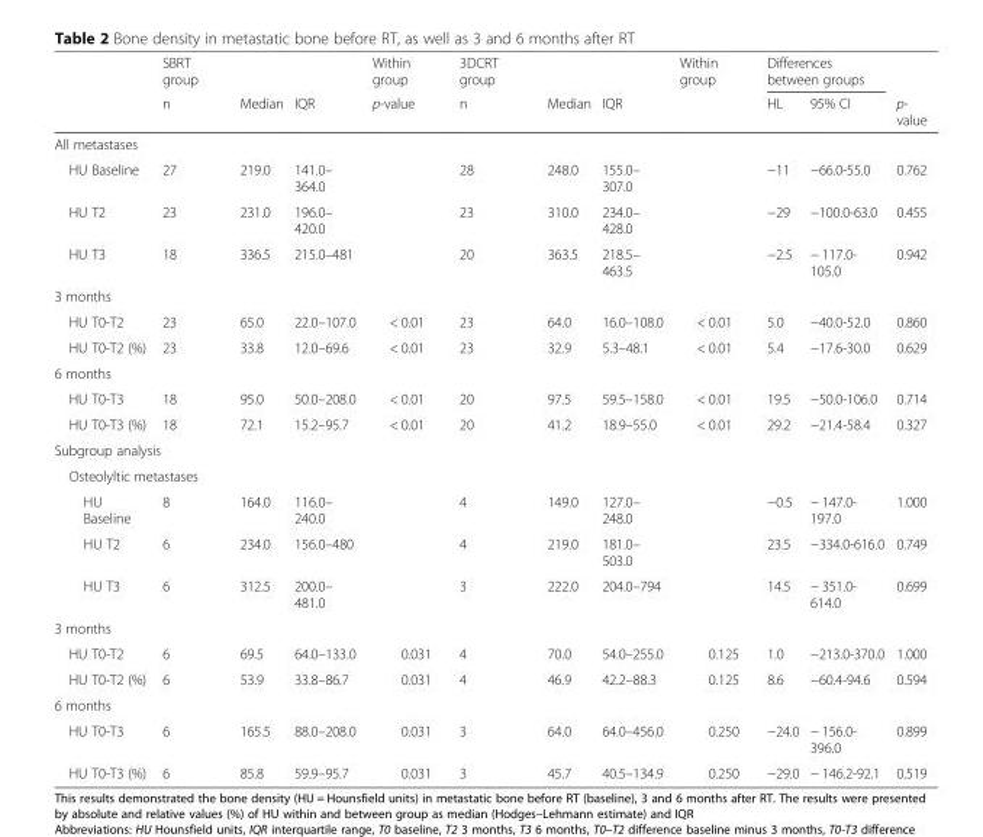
<table><thead><tr><td rowspan="2"></td><td rowspan="2">SBRT group n</td><td rowspan="2">Median</td><td rowspan="2">IQR</td><td rowspan="2">Within group p-value</td><td rowspan="2">3DCRT group n</td><td rowspan="2">Median</td><td rowspan="2">IQR</td><td rowspan="2">Within group</td><td colspan="2">Differences between groups</td><td rowspan="2">p- value</td></tr><tr><td>HL</td><td>95% CI</td></tr></thead><tbody><tr><td colspan="12">All metastases</td></tr><tr><td>HU Baseline</td><td>27</td><td>219.0</td><td>141.0– 364.0</td><td></td><td>28</td><td>248.0</td><td>155.0– 307.0</td><td></td><td>−11</td><td>−66.0-55.0</td><td>0.762</td></tr><tr><td>HU T2</td><td>23</td><td>231.0</td><td>196.0– 420.0</td><td></td><td>23</td><td>310.0</td><td>234.0– 428.0</td><td></td><td>−29</td><td>−100.0-63.0</td><td>0.455</td></tr><tr><td>HU T3</td><td>18</td><td>336.5</td><td>215.0–481</td><td></td><td>20</td><td>363.5</td><td>218.5– 463.5</td><td></td><td>−2.5</td><td>− 117.0- 105.0</td><td>0.942</td></tr><tr><td colspan="12">3 months</td></tr><tr><td>HU T0-T2</td><td>23</td><td>65.0</td><td>22.0–107.0</td><td>&lt; 0.01</td><td>23</td><td>64.0</td><td>16.0–108.0</td><td>&lt; 0.01</td><td>5.0</td><td>−40.0-52.0</td><td>0.860</td></tr><tr><td>HU T0-T2 (%)</td><td>23</td><td>33.8</td><td>12.0–69.6</td><td>&lt; 0.01</td><td>23</td><td>32.9</td><td>5.3–48.1</td><td>&lt; 0.01</td><td>5.4</td><td>−17.6-30.0</td><td>0.629</td></tr><tr><td colspan="12">6 months</td></tr><tr><td>HU T0-T3</td><td>18</td><td>95.0</td><td>50.0–208.0</td><td>&lt; 0.01</td><td>20</td><td>97.5</td><td>59.5–158.0</td><td>&lt; 0.01</td><td>19.5</td><td>−50.0-106.0</td><td>0.714</td></tr><tr><td>HU T0-T3 (%)</td><td>18</td><td>72.1</td><td>15.2–95.7</td><td>&lt; 0.01</td><td>20</td><td>41.2</td><td>18.9–55.0</td><td>&lt; 0.01</td><td>29.2</td><td>−21.4-58.4</td><td>0.327</td></tr><tr><td colspan="12">Subgroup analysis</td></tr><tr><td colspan="12">Osteolyltic metastases</td></tr><tr><td>HU Baseline</td><td>8</td><td>164.0</td><td>116.0– 240.0</td><td></td><td>4</td><td>149.0</td><td>127.0– 248.0</td><td></td><td>−0.5</td><td>− 147.0- 197.0</td><td>1.000</td></tr><tr><td>HU T2</td><td>6</td><td>234.0</td><td>156.0–480</td><td></td><td>4</td><td>219.0</td><td>181.0– 503.0</td><td></td><td>23.5</td><td>−334.0-616.0</td><td>0.749</td></tr><tr><td>HU T3</td><td>6</td><td>312.5</td><td>200.0– 481.0</td><td></td><td>3</td><td>222.0</td><td>204.0–794</td><td></td><td>14.5</td><td>− 351.0- 614.0</td><td>0.699</td></tr><tr><td colspan="12">3 months</td></tr><tr><td>HU T0-T2</td><td>6</td><td>69.5</td><td>64.0–133.0</td><td>0.031</td><td>4</td><td>70.0</td><td>54.0–255.0</td><td>0.125</td><td>1.0</td><td>−213.0-370.0</td><td>1.000</td></tr><tr><td>HU T0-T2 (%)</td><td>6</td><td>53.9</td><td>33.8–86.7</td><td>0.031</td><td>4</td><td>46.9</td><td>42.2–88.3</td><td>0.125</td><td>8.6</td><td>−60.4-94.6</td><td>0.594</td></tr><tr><td colspan="12">6 months</td></tr><tr><td>HU T0-T3</td><td>6</td><td>165.5</td><td>88.0–208.0</td><td>0.031</td><td>3</td><td>64.0</td><td>64.0–456.0</td><td>0.250</td><td>−24.0</td><td>− 156.0- 396.0</td><td>0.899</td></tr><tr><td>HU T0-T3 (%)</td><td>6</td><td>85.8</td><td>59.9–95.7</td><td>0.031</td><td>3</td><td>45.7</td><td>40.5–134.9</td><td>0.250</td><td>−29.0</td><td>− 146.2-92.1</td><td>0.519</td></tr></tbody></table>